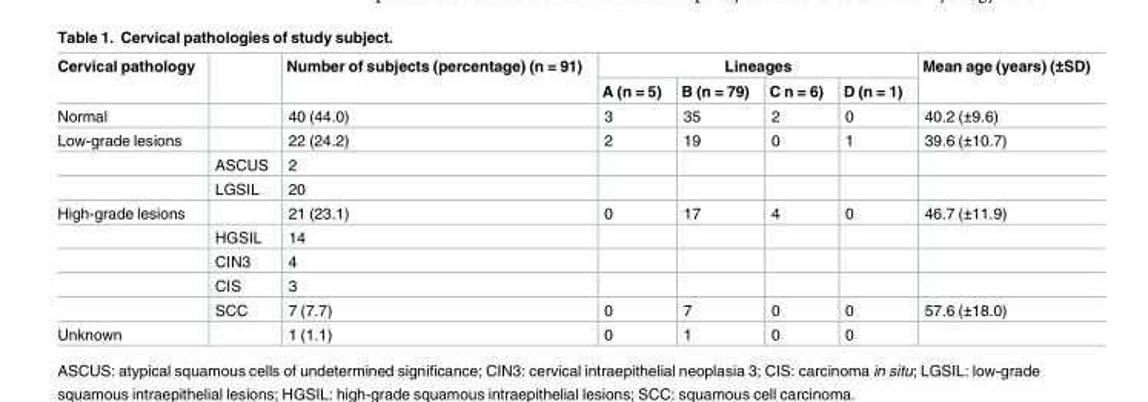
<table><thead><tr><td rowspan="2">Cervical pathology</td><td rowspan="2"></td><td rowspan="2">Number of subjects (percentage) (n = 91)</td><td colspan="4">Lineages</td><td rowspan="2">Mean age (years) (±SD)</td></tr><tr><td>A (n = 5)</td><td>B (n = 79)</td><td>C n = 6)</td><td>D (n = 1)</td></tr></thead><tbody><tr><td>Normal</td><td></td><td>40 (44.0)</td><td>3</td><td>35</td><td>2</td><td>0</td><td>40.2 (±9.6)</td></tr><tr><td rowspan="3">Low-grade lesions</td><td></td><td>22 (24.2)</td><td>2</td><td>19</td><td>0</td><td>1</td><td>39.6 (±10.7)</td></tr><tr><td>ASCUS</td><td>2</td><td></td><td></td><td></td><td></td><td></td></tr><tr><td>LGSIL</td><td>20</td><td></td><td></td><td></td><td></td><td></td></tr><tr><td rowspan="5">High-grade lesions</td><td></td><td>21 (23.1)</td><td>0</td><td>17</td><td>4</td><td>0</td><td>46.7 (±11.9)</td></tr><tr><td>HGSIL</td><td>14</td><td></td><td></td><td></td><td></td><td></td></tr><tr><td>CIN3</td><td>4</td><td></td><td></td><td></td><td></td><td></td></tr><tr><td>CIS</td><td>3</td><td></td><td></td><td></td><td></td><td></td></tr><tr><td>SCC</td><td>7 (7.7)</td><td>0</td><td>7</td><td>0</td><td>0</td><td>57.6 (±18.0)</td></tr><tr><td>Unknown</td><td></td><td>1 (1.1)</td><td>0</td><td>1</td><td>0</td><td>0</td><td></td></tr></tbody></table>